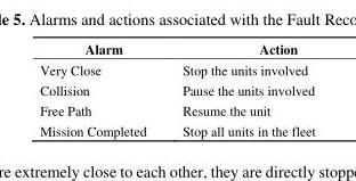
<table><thead><tr><td>Alarm</td><td>Action</td></tr></thead><tbody><tr><td>Very Close</td><td>Stop the units involved</td></tr><tr><td>Collision</td><td>Pause the units involved</td></tr><tr><td>Free Path</td><td>Resume the unit</td></tr><tr><td>Mission Completed</td><td>Stop all units in the fleet</td></tr></tbody></table>